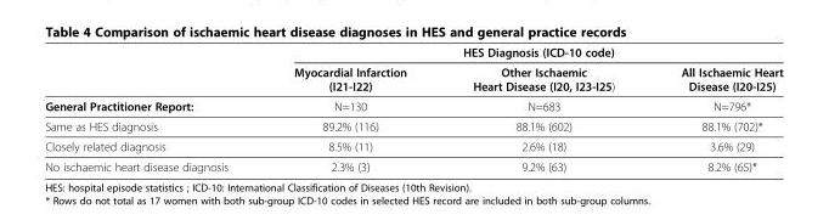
<table><thead><tr><td rowspan="2"></td><td colspan="3">HES Diagnosis (ICD-10 code)</td></tr><tr><td>Myocardial Infarction (I21-I22)</td><td>Other Ischaemic Heart Disease (I20, I23-I25)</td><td>All Ischaemic Heart Disease (I20-I25)</td></tr></thead><tbody><tr><td>General Practitioner Report:</td><td>N=130</td><td>N=683</td><td>N=796*</td></tr><tr><td>Same as HES diagnosis</td><td>89.2% (116)</td><td>88.1% (602)</td><td>88.1% (702)*</td></tr><tr><td>Closely related diagnosis</td><td>8.5% (11)</td><td>2.6% (18)</td><td>3.6% (29)</td></tr><tr><td>No ischaemic heart disease diagnosis</td><td>2.3% (3)</td><td>9.2% (63)</td><td>8.2% (65)*</td></tr></tbody></table>